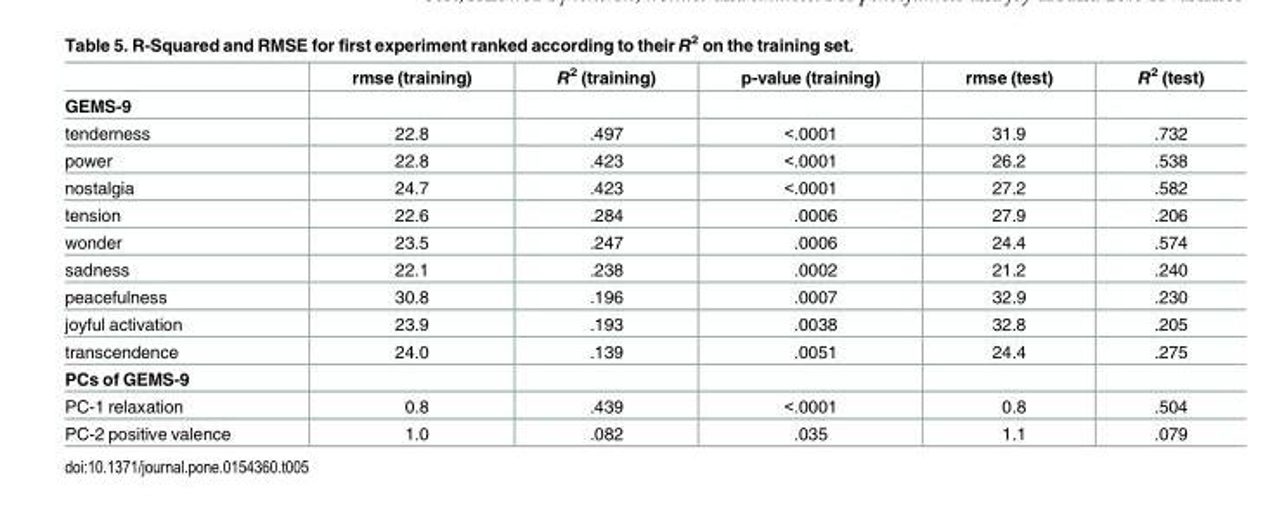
<table><thead><tr><td></td><td>rmse (training)</td><td>R<sup>2</sup> (training)</td><td>p-value (training)</td><td>rmse (test)</td><td>R<sup>2</sup> (test)</td></tr></thead><tbody><tr><td colspan="6">GEMS-9</td></tr><tr><td>tenderness</td><td>22.8</td><td>.497</td><td>&lt;.0001</td><td>31.9</td><td>.732</td></tr><tr><td>power</td><td>22.8</td><td>.423</td><td>&lt;.0001</td><td>26.2</td><td>.538</td></tr><tr><td>nostalgia</td><td>24.7</td><td>.423</td><td>&lt;.0001</td><td>27.2</td><td>.582</td></tr><tr><td>tension</td><td>22.6</td><td>.284</td><td>.0006</td><td>27.9</td><td>.206</td></tr><tr><td>wonder</td><td>23.5</td><td>.247</td><td>.0006</td><td>24.4</td><td>.574</td></tr><tr><td>sadness</td><td>22.1</td><td>.238</td><td>.0002</td><td>21.2</td><td>.240</td></tr><tr><td>peacefulness</td><td>30.8</td><td>.196</td><td>.0007</td><td>32.9</td><td>.230</td></tr><tr><td>joyful activation</td><td>23.9</td><td>.193</td><td>.0038</td><td>32.8</td><td>.205</td></tr><tr><td>transcendence</td><td>24.0</td><td>.139</td><td>.0051</td><td>24.4</td><td>.275</td></tr><tr><td colspan="6">PCs of GEMS-9</td></tr><tr><td>PC-1 relaxation</td><td>0.8</td><td>.439</td><td>&lt;.0001</td><td>0.8</td><td>.504</td></tr><tr><td>PC-2 positive valence</td><td>1.0</td><td>.082</td><td>.035</td><td>1.1</td><td>.079</td></tr></tbody></table>